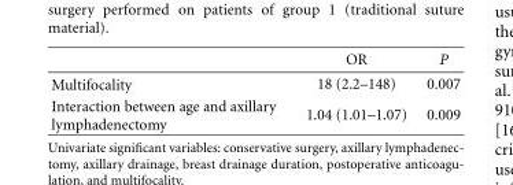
<table><thead><tr><td></td><td>OR</td><td>P</td></tr></thead><tbody><tr><td>Multifocality</td><td>18 (2.2–148)</td><td>0.007</td></tr><tr><td>Interaction between age and axillary lymphadenectomy</td><td>1.04 (1.01–1.07)</td><td>0.009</td></tr></tbody></table>